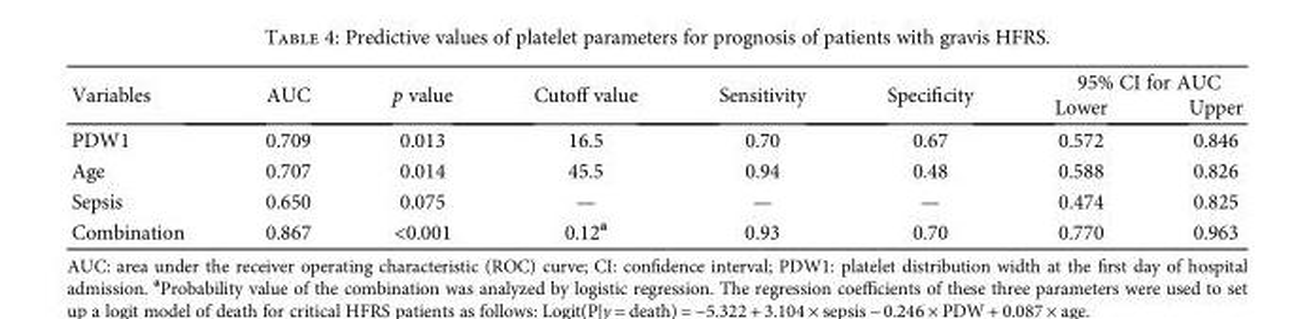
<table><thead><tr><td rowspan="2">Variables</td><td rowspan="2">AUC</td><td rowspan="2">p value</td><td rowspan="2">Cutoff value</td><td rowspan="2">Sensitivity</td><td rowspan="2">Specificity</td><td colspan="2">95% CI for AUC</td></tr><tr><td>Lower</td><td>Upper</td></tr></thead><tbody><tr><td>PDW1</td><td>0.709</td><td>0.013</td><td>16.5</td><td>0.70</td><td>0.67</td><td>0.572</td><td>0.846</td></tr><tr><td>Age</td><td>0.707</td><td>0.014</td><td>45.5</td><td>0.94</td><td>0.48</td><td>0.588</td><td>0.826</td></tr><tr><td>Sepsis</td><td>0.650</td><td>0.075</td><td>—</td><td>—</td><td>—</td><td>0.474</td><td>0.825</td></tr><tr><td>Combination</td><td>0.867</td><td>&lt;0.001</td><td>0.12<sup>a</sup></td><td>0.93</td><td>0.70</td><td>0.770</td><td>0.963</td></tr></tbody></table>